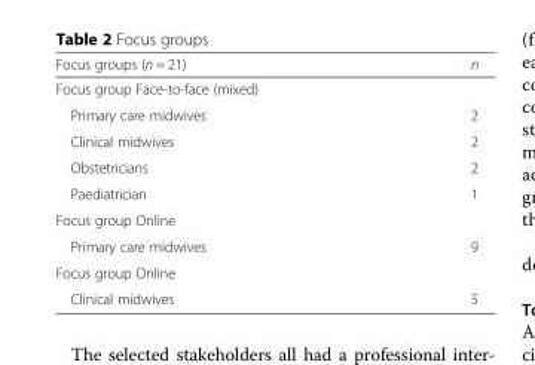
<table><thead><tr><td>Focus groups (n = 21)</td><td>n</td></tr></thead><tbody><tr><td colspan="2">Focus group Face-to-face (mixed)</td></tr><tr><td>Primary care midwives</td><td>2</td></tr><tr><td>Clinical midwives</td><td>2</td></tr><tr><td>Obstetricians</td><td>2</td></tr><tr><td>Paediatrician</td><td>1</td></tr><tr><td colspan="2">Focus group Online</td></tr><tr><td>Primary care midwives</td><td>9</td></tr><tr><td colspan="2">Focus group Online</td></tr><tr><td>Clinical midwives</td><td>5</td></tr></tbody></table>